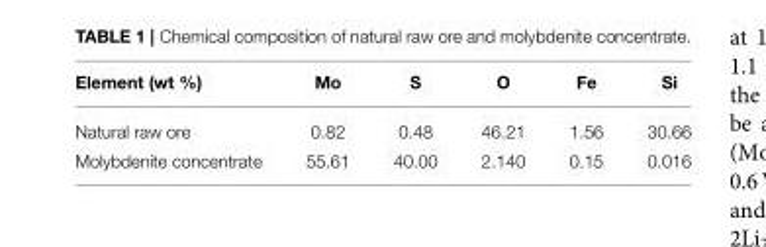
<table><thead><tr><td>Element (wt %)</td><td>Mo</td><td>S</td><td>O</td><td>Fe</td><td>Si</td></tr></thead><tbody><tr><td>Natural raw ore</td><td>0.82</td><td>0.48</td><td>46.21</td><td>1.56</td><td>30.66</td></tr><tr><td>Molybdenite concentrate</td><td>55.61</td><td>40.00</td><td>2.140</td><td>0.15</td><td>0.016</td></tr></tbody></table>